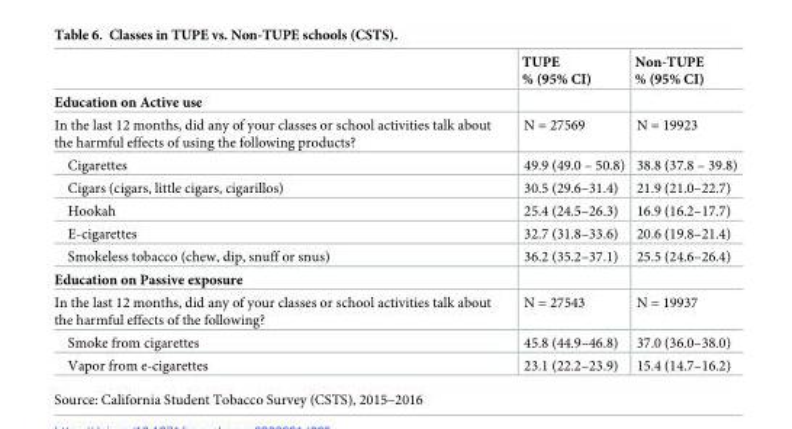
<table><thead><tr><td></td><td>TUPE % (95% CI)</td><td>Non-TUPE % (95% CI)</td></tr></thead><tbody><tr><td colspan="3">Education on Active use</td></tr><tr><td>In the last 12 months, did any of your classes or school activities talk about the harmful effects of using the following products?</td><td>N = 27569</td><td>N = 19923</td></tr><tr><td>Cigarettes</td><td>49.9 (49.0 – 50.8)</td><td>38.8 (37.8 – 39.8)</td></tr><tr><td>Cigars (cigars, little cigars, cigarillos)</td><td>30.5 (29.6–31.4)</td><td>21.9 (21.0–22.7)</td></tr><tr><td>Hookah</td><td>25.4 (24.5–26.3)</td><td>16.9 (16.2–17.7)</td></tr><tr><td>E-cigarettes</td><td>32.7 (31.8–33.6)</td><td>20.6 (19.8–21.4)</td></tr><tr><td>Smokeless tobacco (chew, dip, snuff or snus)</td><td>36.2 (35.2–37.1)</td><td>25.5 (24.6–26.4)</td></tr><tr><td colspan="3">Education on Passive exposure</td></tr><tr><td>In the last 12 months, did any of your classes or school activities talk about the harmful effects of the following?</td><td>N = 27543</td><td>N = 19937</td></tr><tr><td>Smoke from cigarettes</td><td>45.8 (44.9–46.8)</td><td>37.0 (36.0–38.0)</td></tr><tr><td>Vapor from e-cigarettes</td><td>23.1 (22.2–23.9)</td><td>15.4 (14.7–16.2)</td></tr></tbody></table>